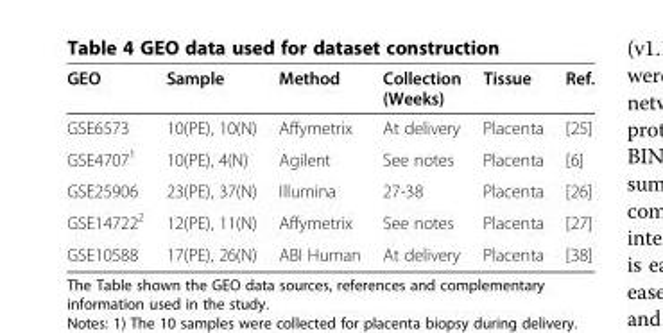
<table><thead><tr><td>GEO</td><td>Sample</td><td>Method</td><td>Collection (Weeks)</td><td>Tissue</td><td>Ref.</td></tr></thead><tbody><tr><td>GSE6573</td><td>10(PE), 10(N)</td><td>Affymetrix</td><td>At delivery</td><td>Placenta</td><td>[25]</td></tr><tr><td>GSE4707<sup>1</sup></td><td>10(PE), 4(N)</td><td>Agilent</td><td>See notes</td><td>Placenta</td><td>[6]</td></tr><tr><td>GSE25906</td><td>23(PE), 37(N)</td><td>Illumina</td><td>27-38</td><td>Placenta</td><td>[26]</td></tr><tr><td>GSE14722<sup>2</sup></td><td>12(PE), 11(N)</td><td>Affymetrix</td><td>See notes</td><td>Placenta</td><td>[27]</td></tr><tr><td>GSE10588</td><td>17(PE), 26(N)</td><td>ABI Human</td><td>At delivery</td><td>Placenta</td><td>[38]</td></tr></tbody></table>